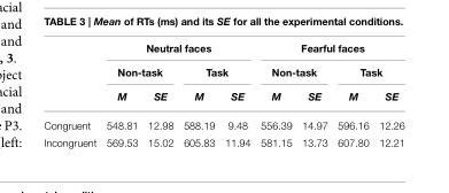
<table><thead><tr><td rowspan="3"></td><td colspan="4">Neutral faces</td><td colspan="4">Fearful faces</td></tr><tr><td colspan="2">Non-task</td><td colspan="2">Task</td><td colspan="2">Non-task</td><td colspan="2">Task</td></tr><tr><td>M</td><td>SE</td><td>M</td><td>SE</td><td>M</td><td>SE</td><td>M</td><td>SE</td></tr></thead><tbody><tr><td>Congruent</td><td>548.81</td><td>12.98</td><td>588.19</td><td>9.48</td><td>556.39</td><td>14.97</td><td>596.16</td><td>12.26</td></tr><tr><td>Incongruent</td><td>569.53</td><td>15.02</td><td>605.83</td><td>11.94</td><td>581.15</td><td>13.73</td><td>607.80</td><td>12.21</td></tr></tbody></table>